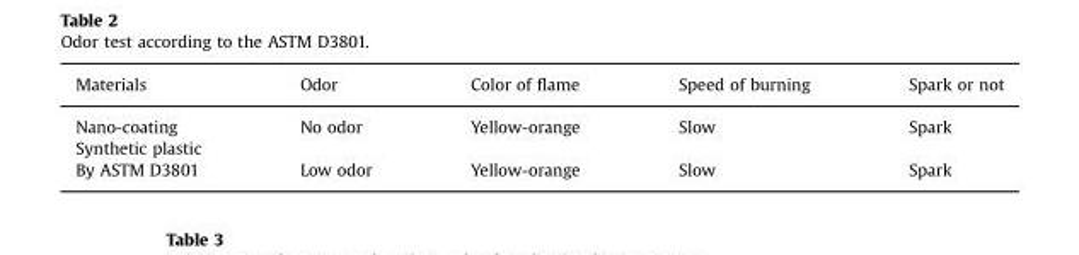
<table><thead><tr><td>Materials</td><td>Odor</td><td>Color of flame</td><td>Speed of burning</td><td>Spark or not</td></tr></thead><tbody><tr><td>Nano-coating</td><td>No odor</td><td>Yellow-orange</td><td>Slow</td><td>Spark</td></tr><tr><td colspan="5">Synthetic plastic</td></tr><tr><td>By ASTM D3801</td><td>Low odor</td><td>Yellow-orange</td><td>Slow</td><td>Spark</td></tr></tbody></table>